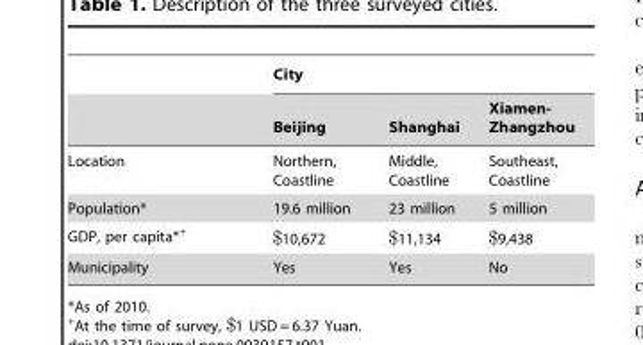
<table><thead><tr><td rowspan="2"></td><td colspan="3">City</td></tr><tr><td>Beijing</td><td>Shanghai</td><td>Xiamen- Zhangzhou</td></tr></thead><tbody><tr><td>Location</td><td>Northern, Coastline</td><td>Middle, Coastline</td><td>Southeast, Coastline</td></tr><tr><td>Population*</td><td>19.6 million</td><td>23 million</td><td>5 million</td></tr><tr><td>GDP, per capita*+</td><td>$10,672</td><td>$11,134</td><td>$9,438</td></tr><tr><td>Municipality</td><td>Yes</td><td>Yes</td><td>No</td></tr></tbody></table>